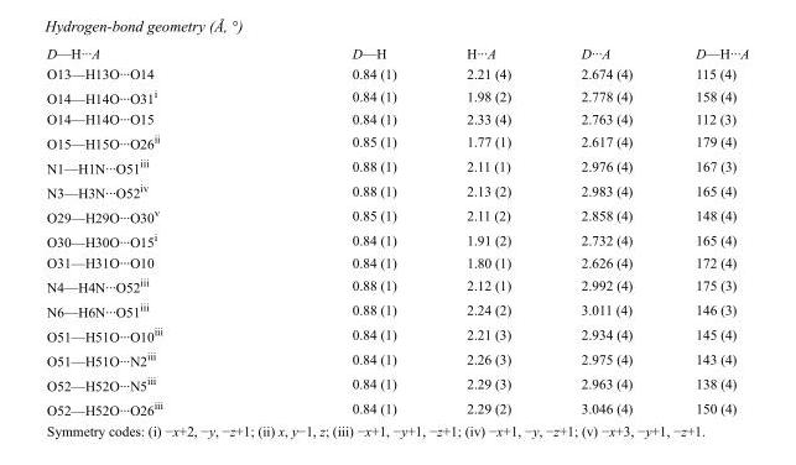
<table><tbody><tr><td>D—H···A</td><td>D—H</td><td>H···A</td><td>D···A</td><td>D—H···A</td></tr><tr><td>O13—H13O···O14</td><td>0.84 (1)</td><td>2.21 (4)</td><td>2.674 (4)</td><td>115 (4)</td></tr><tr><td>O14—H14O···O31<sup>i</sup></td><td>0.84 (1)</td><td>1.98 (2)</td><td>2.778 (4)</td><td>158 (4)</td></tr><tr><td>O14—H14O···O15</td><td>0.84 (1)</td><td>2.33 (4)</td><td>2.763 (4)</td><td>112 (3)</td></tr><tr><td>O15—H15O···O26<sup>ii</sup></td><td>0.85 (1)</td><td>1.77 (1)</td><td>2.617 (4)</td><td>179 (4)</td></tr><tr><td>N1—H1N···O51<sup>iii</sup></td><td>0.88 (1)</td><td>2.11 (1)</td><td>2.976 (4)</td><td>167 (3)</td></tr><tr><td>N3—H3N···O52<sup>iv</sup></td><td>0.88 (1)</td><td>2.13 (2)</td><td>2.983 (4)</td><td>165 (4)</td></tr><tr><td>O29—H29O···O30<sup>v</sup></td><td>0.85 (1)</td><td>2.11 (2)</td><td>2.858 (4)</td><td>148 (4)</td></tr><tr><td>O30—H30O···O15<sup>i</sup></td><td>0.84 (1)</td><td>1.91 (2)</td><td>2.732 (4)</td><td>165 (4)</td></tr><tr><td>O31—H31O···O10</td><td>0.84 (1)</td><td>1.80 (1)</td><td>2.626 (4)</td><td>172 (4)</td></tr><tr><td>N4—H4N···O52<sup>iii</sup></td><td>0.88 (1)</td><td>2.12 (1)</td><td>2.992 (4)</td><td>175 (3)</td></tr><tr><td>N6—H6N···O51<sup>iii</sup></td><td>0.88 (1)</td><td>2.24 (2)</td><td>3.011 (4)</td><td>146 (3)</td></tr><tr><td>O51—H51O···O10<sup>iii</sup></td><td>0.84 (1)</td><td>2.21 (3)</td><td>2.934 (4)</td><td>145 (4)</td></tr><tr><td>O51—H51O···N2<sup>iii</sup></td><td>0.84 (1)</td><td>2.26 (3)</td><td>2.975 (4)</td><td>143 (4)</td></tr><tr><td>O52—H52O···N5<sup>iii</sup></td><td>0.84 (1)</td><td>2.29 (3)</td><td>2.963 (4)</td><td>138 (4)</td></tr><tr><td>O52—H52O···O26<sup>iii</sup></td><td>0.84 (1)</td><td>2.29 (2)</td><td>3.046 (4)</td><td>150 (4)</td></tr></tbody></table>